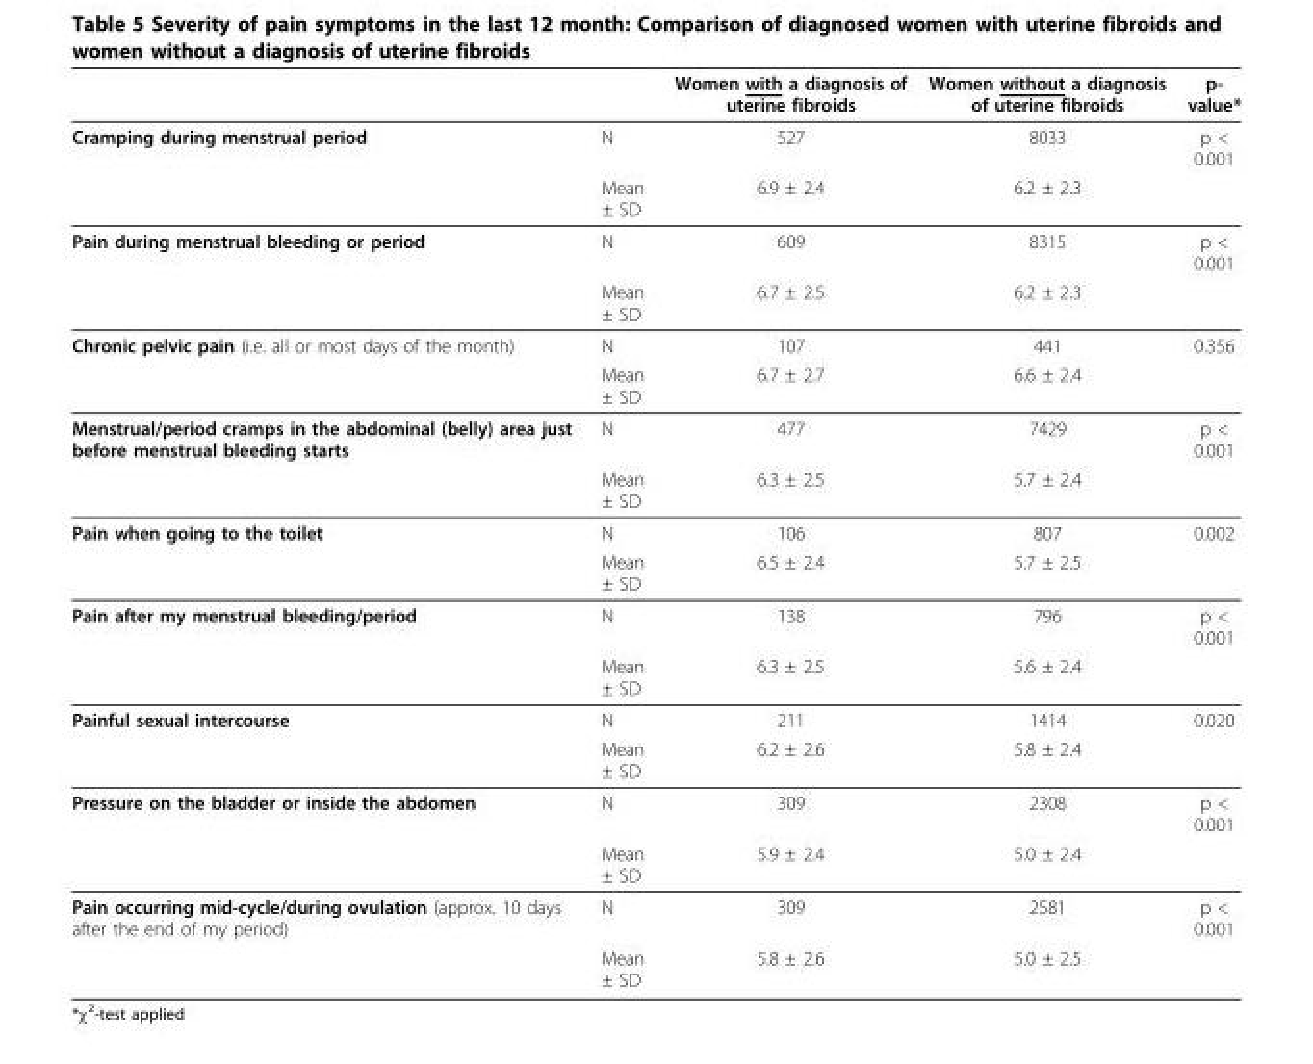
<table><thead><tr><td></td><td></td><td>Women with a diagnosis of uterine fibroids</td><td>Women without a diagnosis of uterine fibroids</td><td>p- value*</td></tr></thead><tbody><tr><td rowspan="2">Cramping during menstrual period</td><td>N</td><td>527</td><td>8033</td><td>p &lt; 0.001</td></tr><tr><td>Mean ± SD</td><td>6.9 ± 2.4</td><td>6.2 ± 2.3</td><td></td></tr><tr><td rowspan="2">Pain during menstrual bleeding or period</td><td>N</td><td>609</td><td>8315</td><td>p &lt; 0.001</td></tr><tr><td>Mean ± SD</td><td>6.7 ± 2.5</td><td>6.2 ± 2.3</td><td></td></tr><tr><td rowspan="2">Chronic pelvic pain (i.e. all or most days of the month)</td><td>N</td><td>107</td><td>441</td><td>0.356</td></tr><tr><td>Mean ± SD</td><td>6.7 ± 2.7</td><td>6.6 ± 2.4</td><td></td></tr><tr><td rowspan="2">Menstrual/period cramps in the abdominal (belly) area just before menstrual bleeding starts</td><td>N</td><td>477</td><td>7429</td><td>p &lt; 0.001</td></tr><tr><td>Mean ± SD</td><td>6.3 ± 2.5</td><td>5.7 ± 2.4</td><td></td></tr><tr><td rowspan="2">Pain when going to the toilet</td><td>N</td><td>106</td><td>807</td><td>0.002</td></tr><tr><td>Mean ± SD</td><td>6.5 ± 2.4</td><td>5.7 ± 2.5</td><td></td></tr><tr><td rowspan="2">Pain after my menstrual bleeding/period</td><td>N</td><td>138</td><td>796</td><td>p &lt; 0.001</td></tr><tr><td>Mean ± SD</td><td>6.3 ± 2.5</td><td>5.6 ± 2.4</td><td></td></tr><tr><td rowspan="2">Painful sexual intercourse</td><td>N</td><td>211</td><td>1414</td><td>0.020</td></tr><tr><td>Mean ± SD</td><td>6.2 ± 2.6</td><td>5.8 ± 2.4</td><td></td></tr><tr><td rowspan="2">Pressure on the bladder or inside the abdomen</td><td>N</td><td>309</td><td>2308</td><td>p &lt; 0.001</td></tr><tr><td>Mean ± SD</td><td>5.9 ± 2.4</td><td>5.0 ± 2.4</td><td></td></tr><tr><td rowspan="2">Pain occurring mid-cycle/during ovulation (approx. 10 days after the end of my period)</td><td>N</td><td>309</td><td>2581</td><td>p &lt; 0.001</td></tr><tr><td>Mean ± SD</td><td>5.8 ± 2.6</td><td>5.0 ± 2.5</td><td></td></tr></tbody></table>